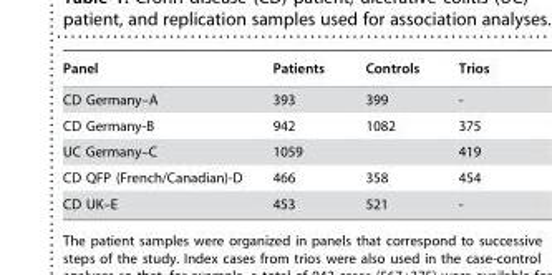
<table><thead><tr><td>Panel</td><td>Patients</td><td>Controls</td><td>Trios</td></tr></thead><tbody><tr><td>CD Germany–A</td><td>393</td><td>399</td><td>-</td></tr><tr><td>CD Germany-B</td><td>942</td><td>1082</td><td>375</td></tr><tr><td>UC Germany–C</td><td>1059</td><td></td><td>419</td></tr><tr><td>CD QFP (French/Canadian)-D</td><td>466</td><td>358</td><td>454</td></tr><tr><td>CD UK–E</td><td>453</td><td>521</td><td>-</td></tr></tbody></table>